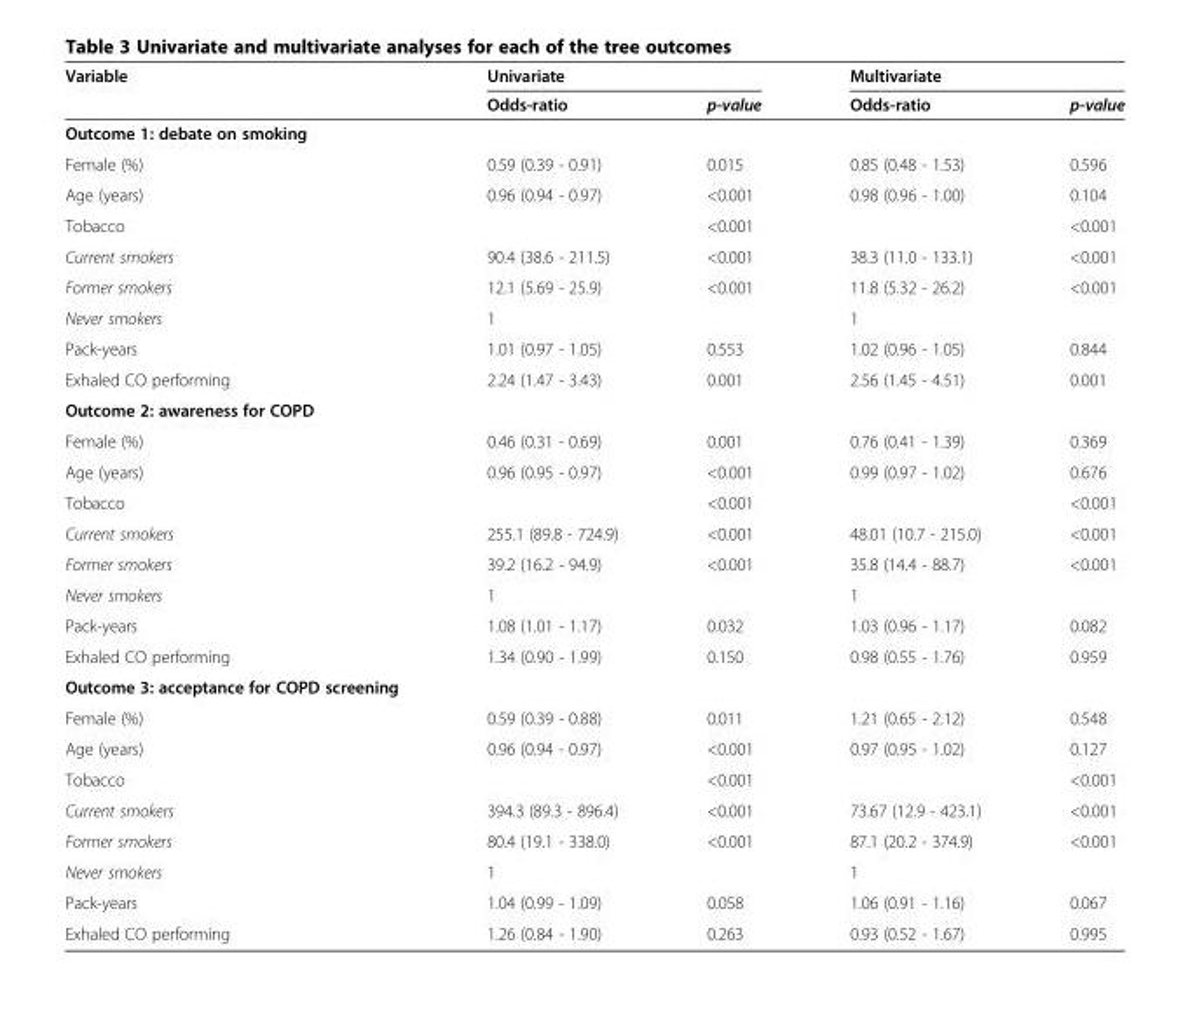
<table><thead><tr><td rowspan="2">Variable</td><td colspan="2">Univariate</td><td colspan="2">Multivariate</td></tr><tr><td>Odds-ratio</td><td>p-value</td><td>Odds-ratio</td><td>p-value</td></tr></thead><tbody><tr><td colspan="5">Outcome 1: debate on smoking</td></tr><tr><td>Female (%)</td><td>0.59 (0.39 - 0.91)</td><td>0.015</td><td>0.85 (0.48 - 1.53)</td><td>0.596</td></tr><tr><td>Age (years)</td><td>0.96 (0.94 - 0.97)</td><td>&lt;0.001</td><td>0.98 (0.96 - 1.00)</td><td>0.104</td></tr><tr><td>Tobacco</td><td></td><td>&lt;0.001</td><td></td><td>&lt;0.001</td></tr><tr><td>Current smokers</td><td>90.4 (38.6 - 211.5)</td><td>&lt;0.001</td><td>38.3 (11.0 - 133.1)</td><td>&lt;0.001</td></tr><tr><td>Former smokers</td><td>12.1 (5.69 - 25.9)</td><td>&lt;0.001</td><td>11.8 (5.32 - 26.2)</td><td>&lt;0.001</td></tr><tr><td>Never smokers</td><td>1</td><td></td><td>1</td><td></td></tr><tr><td>Pack-years</td><td>1.01 (0.97 - 1.05)</td><td>0.553</td><td>1.02 (0.96 - 1.05)</td><td>0.844</td></tr><tr><td>Exhaled CO performing</td><td>2.24 (1.47 - 3.43)</td><td>0.001</td><td>2.56 (1.45 - 4.51)</td><td>0.001</td></tr><tr><td colspan="5">Outcome 2: awareness for COPD</td></tr><tr><td>Female (%)</td><td>0.46 (0.31 - 0.69)</td><td>0.001</td><td>0.76 (0.41 - 1.39)</td><td>0.369</td></tr><tr><td>Age (years)</td><td>0.96 (0.95 - 0.97)</td><td>&lt;0.001</td><td>0.99 (0.97 - 1.02)</td><td>0.676</td></tr><tr><td>Tobacco</td><td></td><td>&lt;0.001</td><td></td><td>&lt;0.001</td></tr><tr><td>Current smokers</td><td>255.1 (89.8 - 724.9)</td><td>&lt;0.001</td><td>48.01 (10.7 - 215.0)</td><td>&lt;0.001</td></tr><tr><td>Former smokers</td><td>39.2 (16.2 - 94.9)</td><td>&lt;0.001</td><td>35.8 (14.4 - 88.7)</td><td>&lt;0.001</td></tr><tr><td>Never smokers</td><td>1</td><td></td><td>1</td><td></td></tr><tr><td>Pack-years</td><td>1.08 (1.01 - 1.17)</td><td>0.032</td><td>1.03 (0.96 - 1.17)</td><td>0.082</td></tr><tr><td>Exhaled CO performing</td><td>1.34 (0.90 - 1.99)</td><td>0.150</td><td>0.98 (0.55 - 1.76)</td><td>0.959</td></tr><tr><td colspan="5">Outcome 3: acceptance for COPD screening</td></tr><tr><td>Female (%)</td><td>0.59 (0.39 - 0.88)</td><td>0.011</td><td>1.21 (0.65 - 2.12)</td><td>0.548</td></tr><tr><td>Age (years)</td><td>0.96 (0.94 - 0.97)</td><td>&lt;0.001</td><td>0.97 (0.95 - 1.02)</td><td>0.127</td></tr><tr><td>Tobacco</td><td></td><td>&lt;0.001</td><td></td><td>&lt;0.001</td></tr><tr><td>Current smokers</td><td>394.3 (89.3 - 896.4)</td><td>&lt;0.001</td><td>73.67 (12.9 - 423.1)</td><td>&lt;0.001</td></tr><tr><td>Former smokers</td><td>80.4 (19.1 - 338.0)</td><td>&lt;0.001</td><td>87.1 (20.2 - 374.9)</td><td>&lt;0.001</td></tr><tr><td>Never smokers</td><td>1</td><td></td><td>1</td><td></td></tr><tr><td>Pack-years</td><td>1.04 (0.99 - 1.09)</td><td>0.058</td><td>1.06 (0.91 - 1.16)</td><td>0.067</td></tr><tr><td>Exhaled CO performing</td><td>1.26 (0.84 - 1.90)</td><td>0.263</td><td>0.93 (0.52 - 1.67)</td><td>0.995</td></tr></tbody></table>